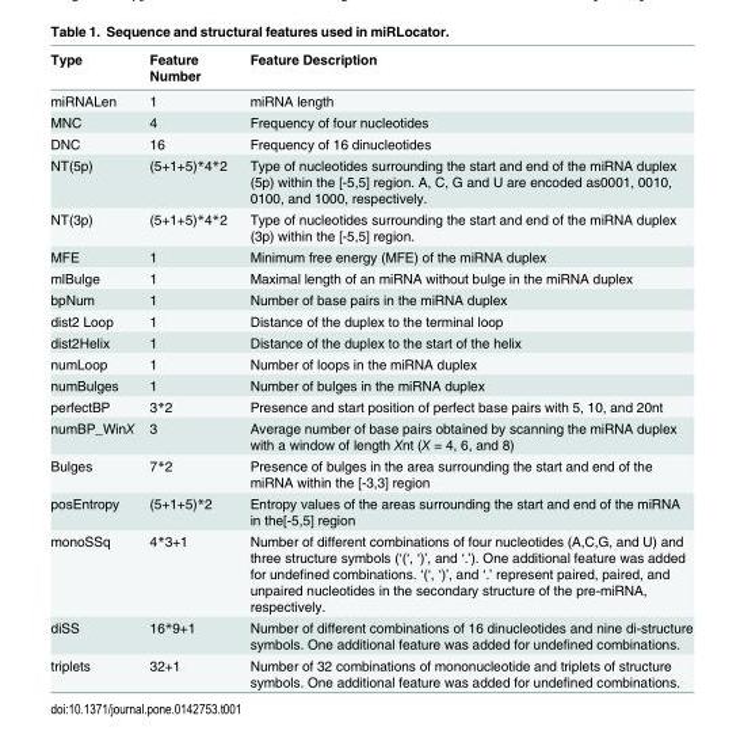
<table><thead><tr><td>Type</td><td>Feature Number</td><td>Feature Description</td></tr></thead><tbody><tr><td>miRNALen</td><td>1</td><td>miRNA length</td></tr><tr><td>MNC</td><td>4</td><td>Frequency of four nucleotides</td></tr><tr><td>DNC</td><td>16</td><td>Frequency of 16 dinucleotides</td></tr><tr><td>NT(5p)</td><td>(5+1+5)*4*2</td><td>Type of nucleotides surrounding the start and end of the miRNA duplex (5p) within the [-5,5] region. A, C, G and U are encoded as0001, 0010, 0100, and 1000, respectively.</td></tr><tr><td>NT(3p)</td><td>(5+1+5)*4*2</td><td>Type of nucleotides surrounding the start and end of the miRNA duplex (3p) within the [-5,5] region.</td></tr><tr><td>MFE</td><td>1</td><td>Minimum free energy (MFE) of the miRNA duplex</td></tr><tr><td>mlBulge</td><td>1</td><td>Maximal length of an miRNA without bulge in the miRNA duplex</td></tr><tr><td>bpNum</td><td>1</td><td>Number of base pairs in the miRNA duplex</td></tr><tr><td>dist2 Loop</td><td>1</td><td>Distance of the duplex to the terminal loop</td></tr><tr><td>dist2Helix</td><td>1</td><td>Distance of the duplex to the start of the helix</td></tr><tr><td>numLoop</td><td>1</td><td>Number of loops in the miRNA duplex</td></tr><tr><td>numBulges</td><td>1</td><td>Number of bulges in the miRNA duplex</td></tr><tr><td>perfectBP</td><td>3*2</td><td>Presence and start position of perfect base pairs with 5, 10, and 20nt</td></tr><tr><td>numBP_WinX</td><td>3</td><td>Average number of base pairs obtained by scanning the miRNA duplex with a window of length Xnt (X = 4, 6, and 8)</td></tr><tr><td>Bulges</td><td>7*2</td><td>Presence of bulges in the area surrounding the start and end of the miRNA within the [-3,3] region</td></tr><tr><td>posEntropy</td><td>(5+1+5)*2</td><td>Entropy values of the areas surrounding the start and end of the miRNA in the[-5,5] region</td></tr><tr><td>monoSSq</td><td>4*3+1</td><td>Number of different combinations of four nucleotides (A,C,G, and U) and three structure symbols (‘(‘, ‘)’, and ‘.’). One additional feature was added for undefined combinations. ‘(‘, ‘)’, and ‘.’ represent paired, paired, and unpaired nucleotides in the secondary structure of the pre-miRNA, respectively.</td></tr><tr><td>diSS</td><td>16*9+1</td><td>Number of different combinations of 16 dinucleotides and nine di-structure symbols. One additional feature was added for undefined combinations.</td></tr><tr><td>triplets</td><td>32+1</td><td>Number of 32 combinations of mononucleotide and triplets of structure symbols. One additional feature was added for undefined combinations.</td></tr></tbody></table>